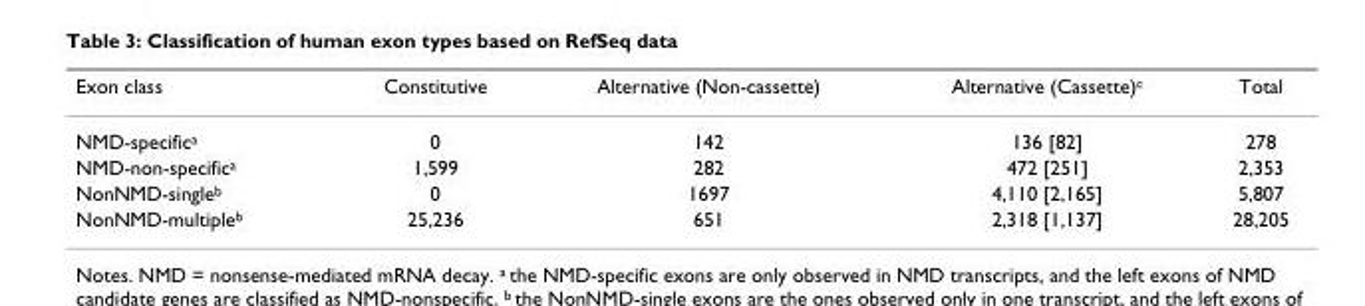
<table><thead><tr><td>Exon class</td><td>Constitutive</td><td>Alternative (Non-cassette)</td><td>Alternative (Cassette)<sup>c</sup></td><td>Total</td></tr></thead><tbody><tr><td>NMD-specific<sup>a</sup></td><td>0</td><td>142</td><td>136 [82]</td><td>278</td></tr><tr><td>NMD-non-specific<sup>a</sup></td><td>1,599</td><td>282</td><td>472 [251]</td><td>2,353</td></tr><tr><td>NonNMD-single<sup>b</sup></td><td>0</td><td>1697</td><td>4,110 [2,165]</td><td>5,807</td></tr><tr><td>NonNMD-multiple<sup>b</sup></td><td>25,236</td><td>651</td><td>2,318 [1,137]</td><td>28,205</td></tr></tbody></table>